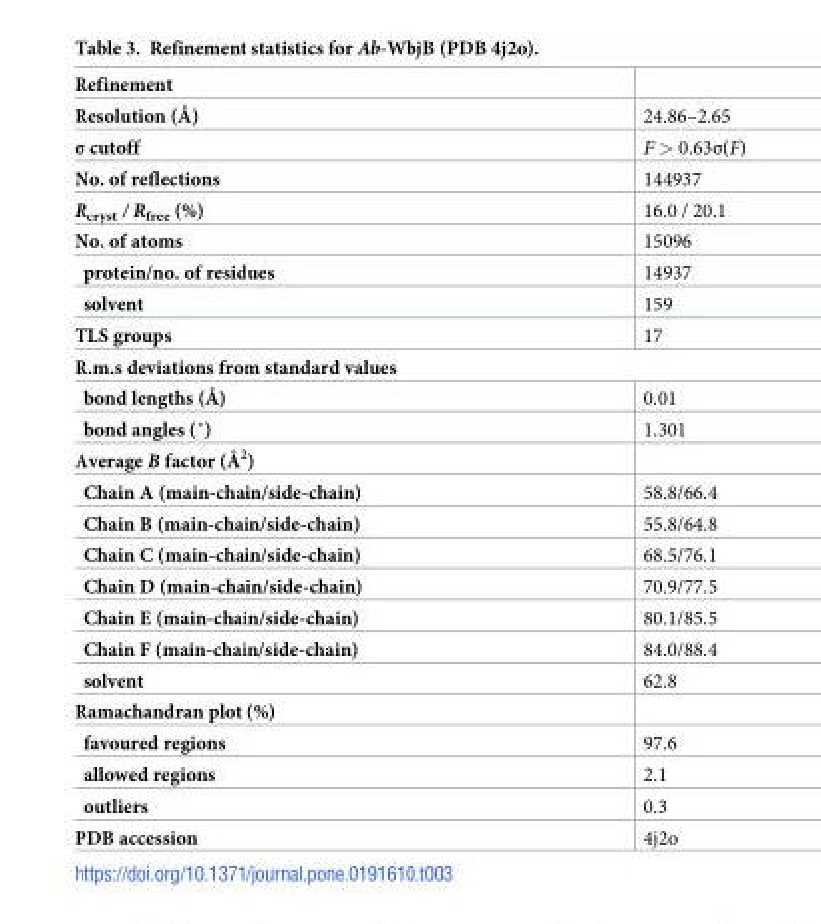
<table><thead><tr><td>Refinement</td><td></td></tr></thead><tbody><tr><td>Resolution (Å)</td><td>24.86–2.65</td></tr><tr><td>σ cutoff</td><td>F &gt; 0.63σ(F)</td></tr><tr><td>No. of reflections</td><td>144937</td></tr><tr><td>R<sub>cryst</sub> / R<sub>free</sub> (%)</td><td>16.0 / 20.1</td></tr><tr><td>No. of atoms</td><td>15096</td></tr><tr><td>protein/no. of residues</td><td>14937</td></tr><tr><td>solvent</td><td>159</td></tr><tr><td>TLS groups</td><td>17</td></tr><tr><td colspan="2">R.m.s deviations from standard values</td></tr><tr><td>bond lengths (Å)</td><td>0.01</td></tr><tr><td>bond angles (˚)</td><td>1.301</td></tr><tr><td colspan="2">Average B factor (Å<sup>2</sup>)</td></tr><tr><td>Chain A (main-chain/side-chain)</td><td>58.8/66.4</td></tr><tr><td>Chain B (main-chain/side-chain)</td><td>55.8/64.8</td></tr><tr><td>Chain C (main-chain/side-chain)</td><td>68.5/76.1</td></tr><tr><td>Chain D (main-chain/side-chain)</td><td>70.9/77.5</td></tr><tr><td>Chain E (main-chain/side-chain)</td><td>80.1/85.5</td></tr><tr><td>Chain F (main-chain/side-chain)</td><td>84.0/88.4</td></tr><tr><td>solvent</td><td>62.8</td></tr><tr><td colspan="2">Ramachandran plot (%)</td></tr><tr><td>favoured regions</td><td>97.6</td></tr><tr><td>allowed regions</td><td>2.1</td></tr><tr><td>outliers</td><td>0.3</td></tr><tr><td>PDB accession</td><td>4j2o</td></tr></tbody></table>